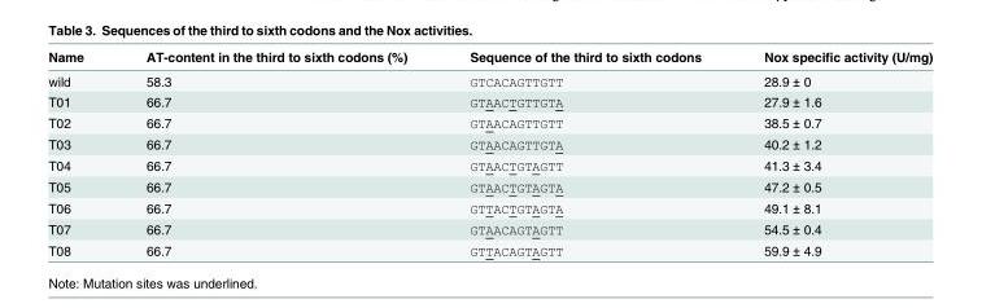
<table><thead><tr><td>Name</td><td>AT-content in the third to sixth codons (%)</td><td>Sequence of the third to sixth codons</td><td>Nox specific activity (U/mg)</td></tr></thead><tbody><tr><td>wild</td><td>58.3</td><td>GTCACAGTTGTT</td><td>28.9 ± 0</td></tr><tr><td>T01</td><td>66.7</td><td>GTAACTGTTGTA</td><td>27.9 ± 1.6</td></tr><tr><td>T02</td><td>66.7</td><td>GTAACAGTTGTT</td><td>38.5 ± 0.7</td></tr><tr><td>T03</td><td>66.7</td><td>GTAACAGTTGTA</td><td>40.2 ± 1.2</td></tr><tr><td>T04</td><td>66.7</td><td>GTAACTGTAGTT</td><td>41.3 ± 3.4</td></tr><tr><td>T05</td><td>66.7</td><td>GTAACTGTAGTA</td><td>47.2 ± 0.5</td></tr><tr><td>T06</td><td>66.7</td><td>GTTACTGTAGTA</td><td>49.1 ± 8.1</td></tr><tr><td>T07</td><td>66.7</td><td>GTAACAGTAGTT</td><td>54.5 ± 0.4</td></tr><tr><td>T08</td><td>66.7</td><td>GTTACAGTAGTT</td><td>59.9 ± 4.9</td></tr></tbody></table>